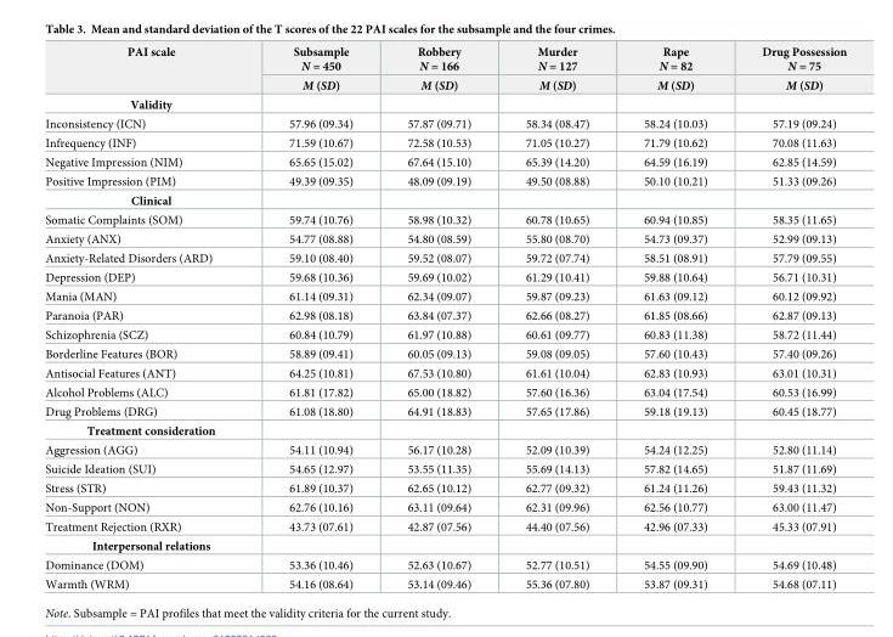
<table><thead><tr><td rowspan="2">PAI scale</td><td rowspan="2">Subsample N = 450 M (SD)</td><td rowspan="2">Robbery N = 166 M (SD)</td><td rowspan="2">Murder N = 127 M (SD)</td><td rowspan="2">Rape N = 82 M (SD)</td><td rowspan="2">Drug Possession N = 75 M (SD)</td></tr><tr></tr></thead><tbody><tr><td colspan="6">Validity</td></tr><tr><td>Inconsistency (ICN)</td><td>57.96 (09.34)</td><td>57.87 (09.71)</td><td>58.34 (08.47)</td><td>58.24 (10.03)</td><td>57.19 (09.24)</td></tr><tr><td>Infrequency (INF)</td><td>71.59 (10.67)</td><td>72.58 (10.53)</td><td>71.05 (10.27)</td><td>71.79 (10.62)</td><td>70.08 (11.63)</td></tr><tr><td>Negative Impression (NIM)</td><td>65.65 (15.02)</td><td>67.64 (15.10)</td><td>65.39 (14.20)</td><td>64.59 (16.19)</td><td>62.85 (14.59)</td></tr><tr><td>Positive Impression (PIM)</td><td>49.39 (09.35)</td><td>48.09 (09.19)</td><td>49.50 (08.88)</td><td>50.10 (10.21)</td><td>51.33 (09.26)</td></tr><tr><td colspan="6">Clinical</td></tr><tr><td>Somatic Complaints (SOM)</td><td>59.74 (10.76)</td><td>58.98 (10.32)</td><td>60.78 (10.65)</td><td>60.94 (10.85)</td><td>58.35 (11.65)</td></tr><tr><td>Anxiety (ANX)</td><td>54.77 (08.88)</td><td>54.80 (08.59)</td><td>55.80 (08.70)</td><td>54.73 (09.37)</td><td>52.99 (09.13)</td></tr><tr><td>Anxiety-Related Disorders (ARD)</td><td>59.10 (08.40)</td><td>59.52 (08.07)</td><td>59.72 (07.74)</td><td>58.51 (08.91)</td><td>57.79 (09.55)</td></tr><tr><td>Depression (DEP)</td><td>59.68 (10.36)</td><td>59.69 (10.02)</td><td>61.29 (10.41)</td><td>59.88 (10.64)</td><td>56.71 (10.31)</td></tr><tr><td>Mania (MAN)</td><td>61.14 (09.31)</td><td>62.34 (09.07)</td><td>59.87 (09.23)</td><td>61.63 (09.12)</td><td>60.12 (09.92)</td></tr><tr><td>Paranoia (PAR)</td><td>62.98 (08.18)</td><td>63.84 (07.37)</td><td>62.66 (08.27)</td><td>61.85 (08.66)</td><td>62.87 (09.13)</td></tr><tr><td>Schizophrenia (SCZ)</td><td>60.84 (10.79)</td><td>61.97 (10.88)</td><td>60.61 (09.77)</td><td>60.83 (11.38)</td><td>58.72 (11.44)</td></tr><tr><td>Borderline Features (BOR)</td><td>58.89 (09.41)</td><td>60.05 (09.13)</td><td>59.08 (09.05)</td><td>57.60 (10.43)</td><td>57.40 (09.26)</td></tr><tr><td>Antisocial Features (ANT)</td><td>64.25 (10.81)</td><td>67.53 (10.80)</td><td>61.61 (10.04)</td><td>62.83 (10.93)</td><td>63.01 (10.31)</td></tr><tr><td>Alcohol Problems (ALC)</td><td>61.81 (17.82)</td><td>65.00 (18.82)</td><td>57.60 (16.36)</td><td>63.04 (17.54)</td><td>60.53 (16.99)</td></tr><tr><td>Drug Problems (DRG)</td><td>61.08 (18.80)</td><td>64.91 (18.83)</td><td>57.65 (17.86)</td><td>59.18 (19.13)</td><td>60.45 (18.77)</td></tr><tr><td colspan="6">Treatment consideration</td></tr><tr><td>Aggression (AGG)</td><td>54.11 (10.94)</td><td>56.17 (10.28)</td><td>52.09 (10.39)</td><td>54.24 (12.25)</td><td>52.80 (11.14)</td></tr><tr><td>Suicide Ideation (SUI)</td><td>54.65 (12.97)</td><td>53.55 (11.35)</td><td>55.69 (14.13)</td><td>57.82 (14.65)</td><td>51.87 (11.69)</td></tr><tr><td>Stress (STR)</td><td>61.89 (10.37)</td><td>62.65 (10.12)</td><td>62.77 (09.32)</td><td>61.24 (11.26)</td><td>59.43 (11.32)</td></tr><tr><td>Non-Support (NON)</td><td>62.76 (10.16)</td><td>63.11 (09.64)</td><td>62.31 (09.96)</td><td>62.56 (10.77)</td><td>63.00 (11.47)</td></tr><tr><td>Treatment Rejection (RXR)</td><td>43.73 (07.61)</td><td>42.87 (07.56)</td><td>44.40 (07.56)</td><td>42.96 (07.33)</td><td>45.33 (07.91)</td></tr><tr><td colspan="6">Interpersonal relations</td></tr><tr><td>Dominance (DOM)</td><td>53.36 (10.46)</td><td>52.63 (10.67)</td><td>52.77 (10.51)</td><td>54.55 (09.90)</td><td>54.69 (10.48)</td></tr><tr><td>Warmth (WRM)</td><td>54.16 (08.64)</td><td>53.14 (09.46)</td><td>55.36 (07.80)</td><td>53.87 (09.31)</td><td>54.68 (07.11)</td></tr></tbody></table>